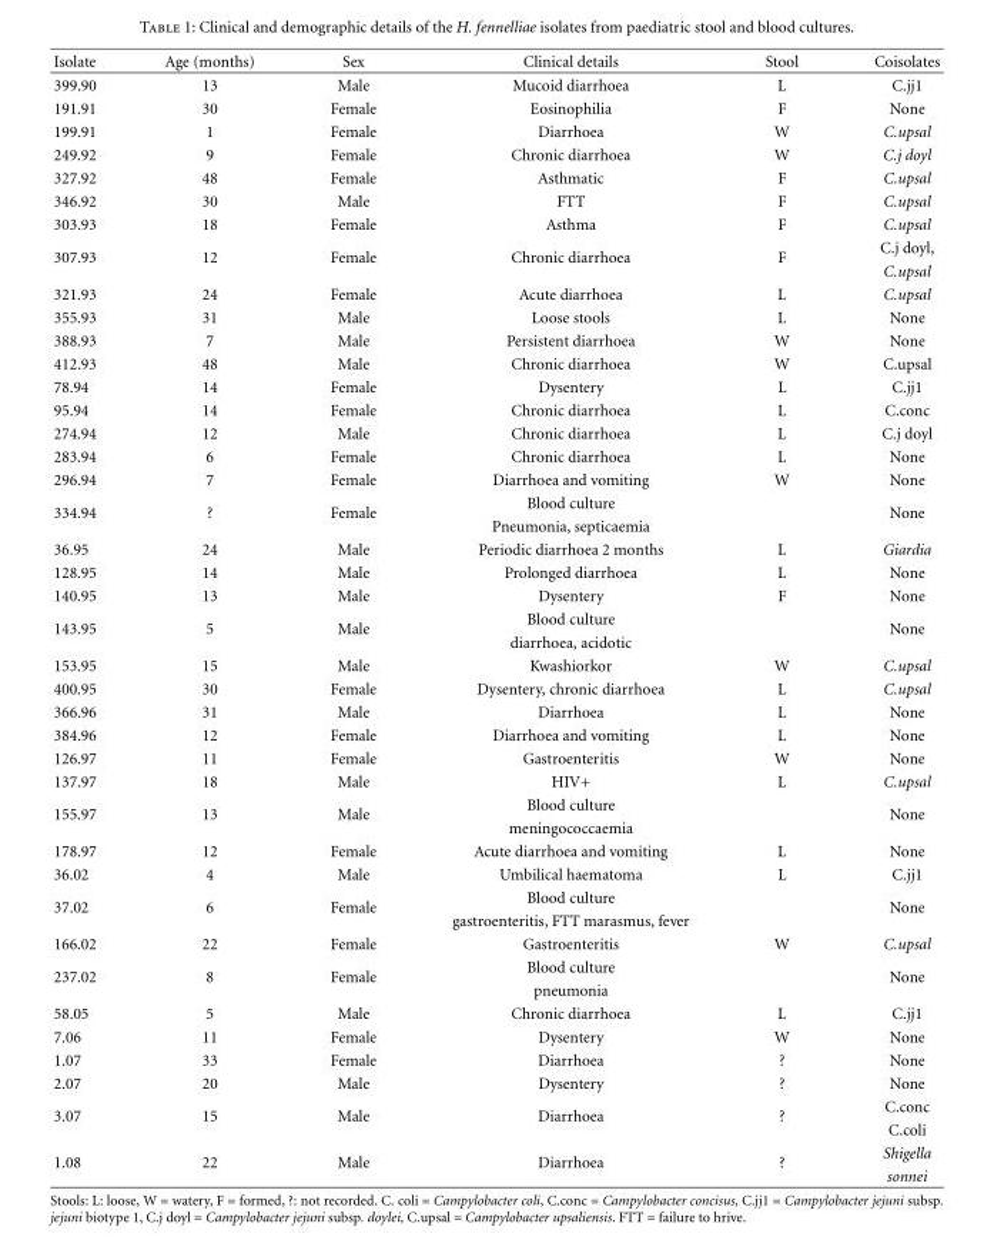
<table><thead><tr><td>Isolate</td><td>Age (months)</td><td>Sex</td><td>Clinical details</td><td>Stool</td><td>Coisolates</td></tr></thead><tbody><tr><td>399.90</td><td>13</td><td>Male</td><td>Mucoid diarrhoea</td><td>L</td><td>C.jj1</td></tr><tr><td>191.91</td><td>30</td><td>Female</td><td>Eosinophilia</td><td>F</td><td>None</td></tr><tr><td>199.91</td><td>1</td><td>Female</td><td>Diarrhoea</td><td>W</td><td>C.upsal</td></tr><tr><td>249.92</td><td>9</td><td>Female</td><td>Chronic diarrhoea</td><td>W</td><td>C.j doyl</td></tr><tr><td>327.92</td><td>48</td><td>Female</td><td>Asthmatic</td><td>F</td><td>C.upsal</td></tr><tr><td>346.92</td><td>30</td><td>Male</td><td>FTT</td><td>F</td><td>C.upsal</td></tr><tr><td>303.93</td><td>18</td><td>Female</td><td>Asthma</td><td>F</td><td>C.upsal</td></tr><tr><td rowspan="2">307.93</td><td rowspan="2">12</td><td rowspan="2">Female</td><td rowspan="2">Chronic diarrhoea</td><td rowspan="2">F</td><td>C.j doyl,</td></tr><tr><td>C.upsal</td></tr><tr><td>321.93</td><td>24</td><td>Female</td><td>Acute diarrhoea</td><td>L</td><td>C.upsal</td></tr><tr><td>355.93</td><td>31</td><td>Male</td><td>Loose stools</td><td>L</td><td>None</td></tr><tr><td>388.93</td><td>7</td><td>Male</td><td>Persistent diarrhoea</td><td>W</td><td>None</td></tr><tr><td>412.93</td><td>48</td><td>Male</td><td>Chronic diarrhoea</td><td>W</td><td>C.upsal</td></tr><tr><td>78.94</td><td>14</td><td>Female</td><td>Dysentery</td><td>L</td><td>C.jj1</td></tr><tr><td>95.94</td><td>14</td><td>Female</td><td>Chronic diarrhoea</td><td>L</td><td>C.conc</td></tr><tr><td>274.94</td><td>12</td><td>Male</td><td>Chronic diarrhoea</td><td>L</td><td>C.j doyl</td></tr><tr><td>283.94</td><td>6</td><td>Female</td><td>Chronic diarrhoea</td><td>L</td><td>None</td></tr><tr><td>296.94</td><td>7</td><td>Female</td><td>Diarrhoea and vomiting</td><td>W</td><td>None</td></tr><tr><td rowspan="2">334.94</td><td rowspan="2">?</td><td rowspan="2">Female</td><td>Blood culture</td><td rowspan="2"></td><td rowspan="2">None</td></tr><tr><td>Pneumonia, septicaemia</td></tr><tr><td>36.95</td><td>24</td><td>Male</td><td>Periodic diarrhoea 2 months</td><td>L</td><td>Giardia</td></tr><tr><td>128.95</td><td>14</td><td>Male</td><td>Prolonged diarrhoea</td><td>L</td><td>None</td></tr><tr><td>140.95</td><td>13</td><td>Male</td><td>Dysentery</td><td>F</td><td>None</td></tr><tr><td rowspan="2">143.95</td><td rowspan="2">5</td><td rowspan="2">Male</td><td>Blood culture</td><td rowspan="2"></td><td rowspan="2">None</td></tr><tr><td>diarrhoea, acidotic</td></tr><tr><td>153.95</td><td>15</td><td>Male</td><td>Kwashiorkor</td><td>W</td><td>C.upsal</td></tr><tr><td>400.95</td><td>30</td><td>Female</td><td>Dysentery, chronic diarrhoea</td><td>L</td><td>C.upsal</td></tr><tr><td>366.96</td><td>31</td><td>Male</td><td>Diarrhoea</td><td>L</td><td>None</td></tr><tr><td>384.96</td><td>12</td><td>Female</td><td>Diarrhoea and vomiting</td><td>L</td><td>None</td></tr><tr><td>126.97</td><td>11</td><td>Female</td><td>Gastroenteritis</td><td>W</td><td>None</td></tr><tr><td>137.97</td><td>18</td><td>Male</td><td>HIV+</td><td>L</td><td>C.upsal</td></tr><tr><td rowspan="2">155.97</td><td rowspan="2">13</td><td rowspan="2">Male</td><td>Blood culture</td><td rowspan="2"></td><td rowspan="2">None</td></tr><tr><td>meningococcaemia</td></tr><tr><td>178.97</td><td>12</td><td>Female</td><td>Acute diarrhoea and vomiting</td><td>L</td><td>None</td></tr><tr><td>36.02</td><td>4</td><td>Male</td><td>Umbilical haematoma</td><td>L</td><td>C.jj1</td></tr><tr><td rowspan="2">37.02</td><td rowspan="2">6</td><td rowspan="2">Female</td><td>Blood culture</td><td rowspan="2"></td><td rowspan="2">None</td></tr><tr><td>gastroenteritis, FTT marasmus, fever</td></tr><tr><td>166.02</td><td>22</td><td>Female</td><td>Gastroenteritis</td><td>W</td><td>C.upsal</td></tr><tr><td rowspan="2">237.02</td><td rowspan="2">8</td><td rowspan="2">Female</td><td>Blood culture</td><td rowspan="2"></td><td rowspan="2">None</td></tr><tr><td>pneumonia</td></tr><tr><td>58.05</td><td>5</td><td>Male</td><td>Chronic diarrhoea</td><td>L</td><td>C.jj1</td></tr><tr><td>7.06</td><td>11</td><td>Female</td><td>Dysentery</td><td>W</td><td>None</td></tr><tr><td>1.07</td><td>33</td><td>Female</td><td>Diarrhoea</td><td>?</td><td>None</td></tr><tr><td>2.07</td><td>20</td><td>Male</td><td>Dysentery</td><td>?</td><td>None</td></tr><tr><td rowspan="2">3.07</td><td rowspan="2">15</td><td rowspan="2">Male</td><td rowspan="2">Diarrhoea</td><td rowspan="2">?</td><td>C.conc</td></tr><tr><td>C.coli</td></tr><tr><td rowspan="2">1.08</td><td rowspan="2">22</td><td rowspan="2">Male</td><td rowspan="2">Diarrhoea</td><td rowspan="2">?</td><td>Shigella</td></tr><tr><td>sonnei</td></tr></tbody></table>